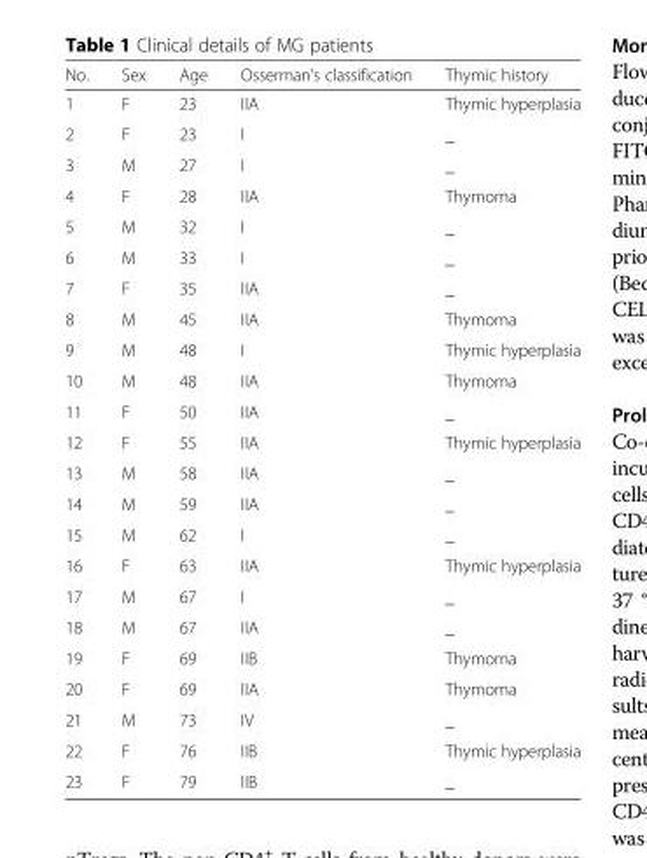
<table><thead><tr><td>No.</td><td>Sex</td><td>Age</td><td>Osserman’s classification</td><td>Thymic history</td></tr></thead><tbody><tr><td>1</td><td>F</td><td>23</td><td>IIA</td><td>Thymic hyperplasia</td></tr><tr><td>2</td><td>F</td><td>23</td><td>I</td><td>_</td></tr><tr><td>3</td><td>M</td><td>27</td><td>I</td><td>_</td></tr><tr><td>4</td><td>F</td><td>28</td><td>IIA</td><td>Thymoma</td></tr><tr><td>5</td><td>M</td><td>32</td><td>I</td><td>_</td></tr><tr><td>6</td><td>M</td><td>33</td><td>I</td><td>_</td></tr><tr><td>7</td><td>F</td><td>35</td><td>IIA</td><td>_</td></tr><tr><td>8</td><td>M</td><td>45</td><td>IIA</td><td>Thymoma</td></tr><tr><td>9</td><td>M</td><td>48</td><td>I</td><td>Thymic hyperplasia</td></tr><tr><td>10</td><td>M</td><td>48</td><td>IIA</td><td>Thymoma</td></tr><tr><td>11</td><td>F</td><td>50</td><td>IIA</td><td>_</td></tr><tr><td>12</td><td>F</td><td>55</td><td>IIA</td><td>Thymic hyperplasia</td></tr><tr><td>13</td><td>M</td><td>58</td><td>IIA</td><td>_</td></tr><tr><td>14</td><td>M</td><td>59</td><td>IIA</td><td>_</td></tr><tr><td>15</td><td>M</td><td>62</td><td>I</td><td>_</td></tr><tr><td>16</td><td>F</td><td>63</td><td>IIA</td><td>Thymic hyperplasia</td></tr><tr><td>17</td><td>M</td><td>67</td><td>I</td><td>_</td></tr><tr><td>18</td><td>M</td><td>67</td><td>IIA</td><td>_</td></tr><tr><td>19</td><td>F</td><td>69</td><td>IIB</td><td>Thymoma</td></tr><tr><td>20</td><td>F</td><td>69</td><td>IIA</td><td>Thymoma</td></tr><tr><td>21</td><td>M</td><td>73</td><td>IV</td><td>_</td></tr><tr><td>22</td><td>F</td><td>76</td><td>IIB</td><td>Thymic hyperplasia</td></tr><tr><td>23</td><td>F</td><td>79</td><td>IIB</td><td>_</td></tr></tbody></table>